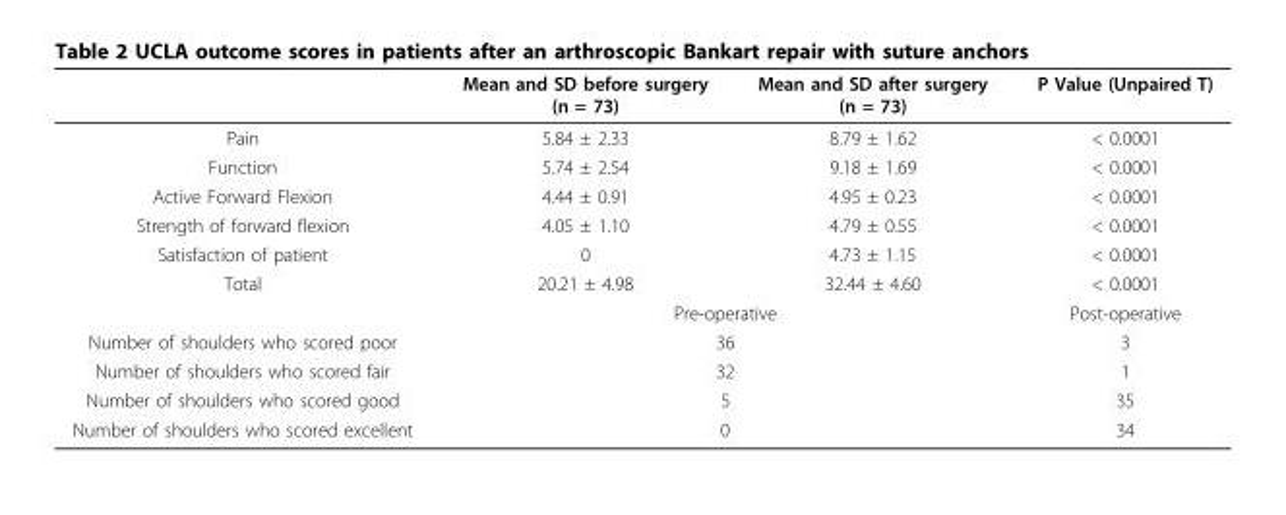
<table><thead><tr><td></td><td>Mean and SD before surgery (n = 73)</td><td>Mean and SD after surgery (n = 73)</td><td>P Value (Unpaired T)</td></tr></thead><tbody><tr><td>Pain</td><td>5.84 ± 2.33</td><td>8.79 ± 1.62</td><td>&lt; 0.0001</td></tr><tr><td>Function</td><td>5.74 ± 2.54</td><td>9.18 ± 1.69</td><td>&lt; 0.0001</td></tr><tr><td>Active Forward Flexion</td><td>4.44 ± 0.91</td><td>4.95 ± 0.23</td><td>&lt; 0.0001</td></tr><tr><td>Strength of forward flexion</td><td>4.05 ± 1.10</td><td>4.79 ± 0.55</td><td>&lt; 0.0001</td></tr><tr><td>Satisfaction of patient</td><td>0</td><td>4.73 ± 1.15</td><td>&lt; 0.0001</td></tr><tr><td rowspan="2">Total</td><td>20.21 ± 4.98</td><td>32.44 ± 4.60</td><td>&lt; 0.0001</td></tr><tr><td colspan="2">Pre-operative</td><td>Post-operative</td></tr><tr><td>Number of shoulders who scored poor</td><td colspan="2">36</td><td>3</td></tr><tr><td>Number of shoulders who scored fair</td><td colspan="2">32</td><td>1</td></tr><tr><td>Number of shoulders who scored good</td><td colspan="2">5</td><td>35</td></tr><tr><td>Number of shoulders who scored excellent</td><td colspan="2">0</td><td>34</td></tr></tbody></table>